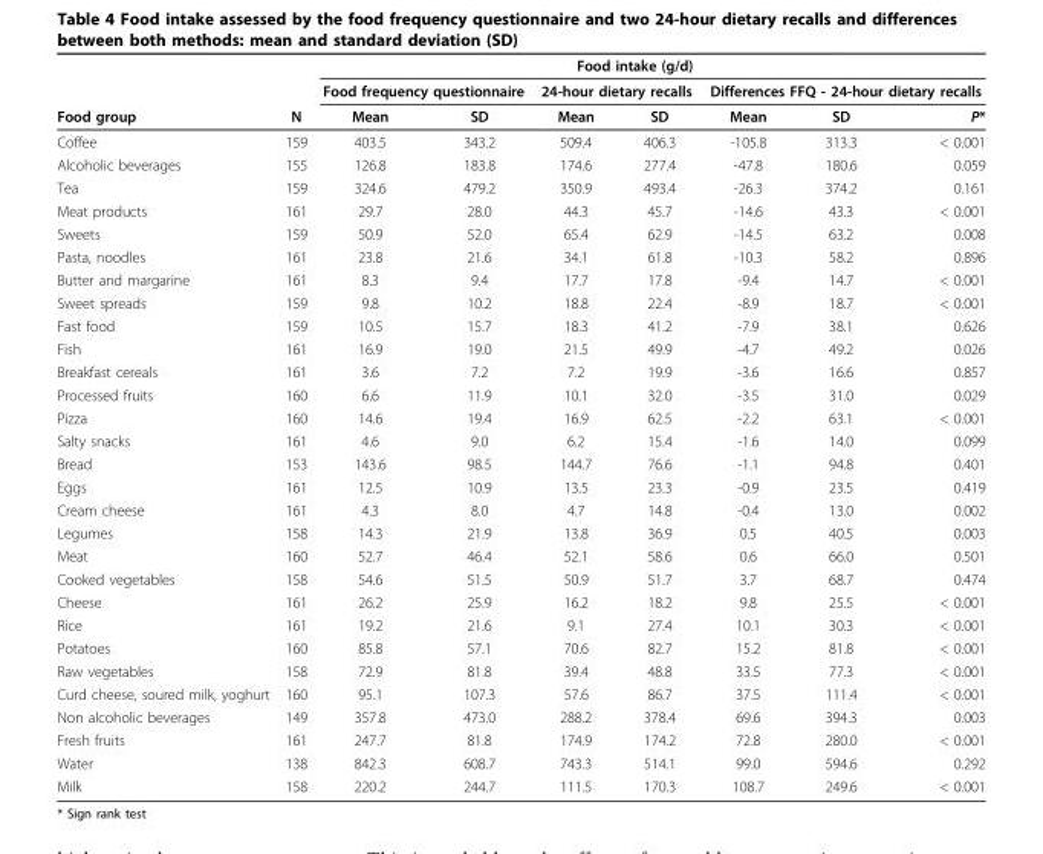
<table><thead><tr><td rowspan="3">Food group</td><td colspan="8">Food intake (g/d)</td></tr><tr><td rowspan="2">N</td><td colspan="2">Food frequency questionnaire</td><td colspan="2">24-hour dietary recalls</td><td colspan="3">Differences FFQ - 24-hour dietary recalls</td></tr><tr><td>Mean</td><td>SD</td><td>Mean</td><td>SD</td><td>Mean</td><td>SD</td><td>P*</td></tr></thead><tbody><tr><td>Coffee</td><td>159</td><td>403.5</td><td>343.2</td><td>509.4</td><td>406.3</td><td>-105.8</td><td>313.3</td><td>&lt; 0.001</td></tr><tr><td>Alcoholic beverages</td><td>155</td><td>126.8</td><td>183.8</td><td>174.6</td><td>277.4</td><td>-47.8</td><td>180.6</td><td>0.059</td></tr><tr><td>Tea</td><td>159</td><td>324.6</td><td>479.2</td><td>350.9</td><td>493.4</td><td>-26.3</td><td>374.2</td><td>0.161</td></tr><tr><td>Meat products</td><td>161</td><td>29.7</td><td>28.0</td><td>44.3</td><td>45.7</td><td>-14.6</td><td>43.3</td><td>&lt; 0.001</td></tr><tr><td>Sweets</td><td>159</td><td>50.9</td><td>52.0</td><td>65.4</td><td>62.9</td><td>-14.5</td><td>63.2</td><td>0.008</td></tr><tr><td>Pasta, noodles</td><td>161</td><td>23.8</td><td>21.6</td><td>34.1</td><td>61.8</td><td>-10.3</td><td>58.2</td><td>0.896</td></tr><tr><td>Butter and margarine</td><td>161</td><td>8.3</td><td>9.4</td><td>17.7</td><td>17.8</td><td>-9.4</td><td>14.7</td><td>&lt; 0.001</td></tr><tr><td>Sweet spreads</td><td>159</td><td>9.8</td><td>10.2</td><td>18.8</td><td>22.4</td><td>-8.9</td><td>18.7</td><td>&lt; 0.001</td></tr><tr><td>Fast food</td><td>159</td><td>10.5</td><td>15.7</td><td>18.3</td><td>41.2</td><td>-7.9</td><td>38.1</td><td>0.626</td></tr><tr><td>Fish</td><td>161</td><td>16.9</td><td>19.0</td><td>21.5</td><td>49.9</td><td>-4.7</td><td>49.2</td><td>0.026</td></tr><tr><td>Breakfast cereals</td><td>161</td><td>3.6</td><td>7.2</td><td>7.2</td><td>19.9</td><td>-3.6</td><td>16.6</td><td>0.857</td></tr><tr><td>Processed fruits</td><td>160</td><td>6.6</td><td>11.9</td><td>10.1</td><td>32.0</td><td>-3.5</td><td>31.0</td><td>0.029</td></tr><tr><td>Pizza</td><td>160</td><td>14.6</td><td>19.4</td><td>16.9</td><td>62.5</td><td>-2.2</td><td>63.1</td><td>&lt; 0.001</td></tr><tr><td>Salty snacks</td><td>161</td><td>4.6</td><td>9.0</td><td>6.2</td><td>15.4</td><td>-1.6</td><td>14.0</td><td>0.099</td></tr><tr><td>Bread</td><td>153</td><td>143.6</td><td>98.5</td><td>144.7</td><td>76.6</td><td>-1.1</td><td>94.8</td><td>0.401</td></tr><tr><td>Eggs</td><td>161</td><td>12.5</td><td>10.9</td><td>13.5</td><td>23.3</td><td>-0.9</td><td>23.5</td><td>0.419</td></tr><tr><td>Cream cheese</td><td>161</td><td>4.3</td><td>8.0</td><td>4.7</td><td>14.8</td><td>-0.4</td><td>13.0</td><td>0.002</td></tr><tr><td>Legumes</td><td>158</td><td>14.3</td><td>21.9</td><td>13.8</td><td>36.9</td><td>0.5</td><td>40.5</td><td>0.003</td></tr><tr><td>Meat</td><td>160</td><td>52.7</td><td>46.4</td><td>52.1</td><td>58.6</td><td>0.6</td><td>66.0</td><td>0.501</td></tr><tr><td>Cooked vegetables</td><td>158</td><td>54.6</td><td>51.5</td><td>50.9</td><td>51.7</td><td>3.7</td><td>68.7</td><td>0.474</td></tr><tr><td>Cheese</td><td>161</td><td>26.2</td><td>25.9</td><td>16.2</td><td>18.2</td><td>9.8</td><td>25.5</td><td>&lt; 0.001</td></tr><tr><td>Rice</td><td>161</td><td>19.2</td><td>21.6</td><td>9.1</td><td>27.4</td><td>10.1</td><td>30.3</td><td>&lt; 0.001</td></tr><tr><td>Potatoes</td><td>160</td><td>85.8</td><td>57.1</td><td>70.6</td><td>82.7</td><td>15.2</td><td>81.8</td><td>&lt; 0.001</td></tr><tr><td>Raw vegetables</td><td>158</td><td>72.9</td><td>81.8</td><td>39.4</td><td>48.8</td><td>33.5</td><td>77.3</td><td>&lt; 0.001</td></tr><tr><td>Curd cheese, soured milk, yoghurt</td><td>160</td><td>95.1</td><td>107.3</td><td>57.6</td><td>86.7</td><td>37.5</td><td>111.4</td><td>&lt; 0.001</td></tr><tr><td>Non alcoholic beverages</td><td>149</td><td>357.8</td><td>473.0</td><td>288.2</td><td>378.4</td><td>69.6</td><td>394.3</td><td>0.003</td></tr><tr><td>Fresh fruits</td><td>161</td><td>247.7</td><td>81.8</td><td>174.9</td><td>174.2</td><td>72.8</td><td>280.0</td><td>&lt; 0.001</td></tr><tr><td>Water</td><td>138</td><td>842.3</td><td>608.7</td><td>743.3</td><td>514.1</td><td>99.0</td><td>594.6</td><td>0.292</td></tr><tr><td>Milk</td><td>158</td><td>220.2</td><td>244.7</td><td>111.5</td><td>170.3</td><td>108.7</td><td>249.6</td><td>&lt; 0.001</td></tr></tbody></table>